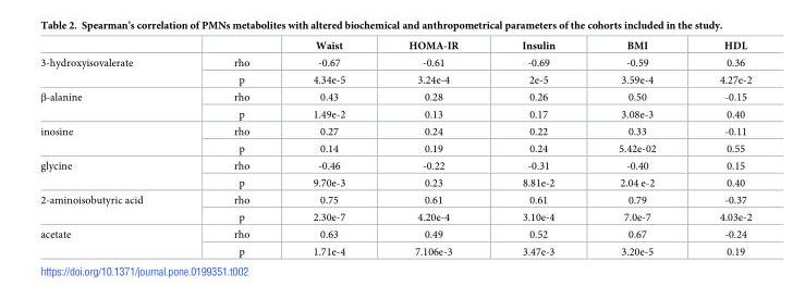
<table><thead><tr><td></td><td></td><td>Waist</td><td>HOMA-IR</td><td>Insulin</td><td>BMI</td><td>HDL</td></tr></thead><tbody><tr><td rowspan="2">3-hydroxyisovalerate</td><td>rho</td><td>-0.67</td><td>-0.61</td><td>-0.69</td><td>-0.59</td><td>0.36</td></tr><tr><td>p</td><td>4.34e-5</td><td>3.24e-4</td><td>2e-5</td><td>3.59e-4</td><td>4.27e-2</td></tr><tr><td rowspan="2">β-alanine</td><td>rho</td><td>0.43</td><td>0.28</td><td>0.26</td><td>0.50</td><td>-0.15</td></tr><tr><td>p</td><td>1.49e-2</td><td>0.13</td><td>0.17</td><td>3.08e-3</td><td>0.40</td></tr><tr><td rowspan="2">inosine</td><td>rho</td><td>0.27</td><td>0.24</td><td>0.22</td><td>0.33</td><td>-0.11</td></tr><tr><td>p</td><td>0.14</td><td>0.19</td><td>0.24</td><td>5.42e-02</td><td>0.55</td></tr><tr><td rowspan="2">glycine</td><td>rho</td><td>-0.46</td><td>-0.22</td><td>-0.31</td><td>-0.40</td><td>0.15</td></tr><tr><td>p</td><td>9.70e-3</td><td>0.23</td><td>8.81e-2</td><td>2.04 e-2</td><td>0.40</td></tr><tr><td rowspan="2">2-aminoisobutyric acid</td><td>rho</td><td>0.75</td><td>0.61</td><td>0.61</td><td>0.79</td><td>-0.37</td></tr><tr><td>p</td><td>2.30e-7</td><td>4.20e-4</td><td>3.10e-4</td><td>7.0e-7</td><td>4.03e-2</td></tr><tr><td rowspan="2">acetate</td><td>rho</td><td>0.63</td><td>0.49</td><td>0.52</td><td>0.67</td><td>-0.24</td></tr><tr><td>p</td><td>1.71e-4</td><td>7.106e-3</td><td>3.47e-3</td><td>3.20e-5</td><td>0.19</td></tr></tbody></table>